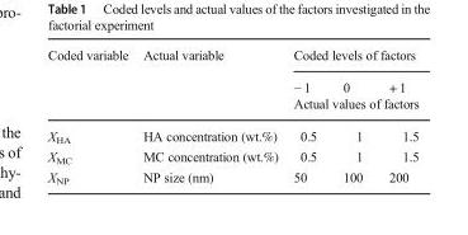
<table><thead><tr><td rowspan="3">Coded variable</td><td rowspan="3">Actual variable</td><td colspan="3">Coded levels of factors</td></tr><tr><td>− 1</td><td>0</td><td>+ 1</td></tr><tr><td colspan="3">Actual values of factors</td></tr></thead><tbody><tr><td>X<sub>HA</sub></td><td>HA concentration (wt.%)</td><td>0.5</td><td>1</td><td>1.5</td></tr><tr><td>X<sub>MC</sub></td><td>MC concentration (wt.%)</td><td>0.5</td><td>1</td><td>1.5</td></tr><tr><td>X<sub>NP</sub></td><td>NP size (nm)</td><td>50</td><td>100</td><td>200</td></tr></tbody></table>